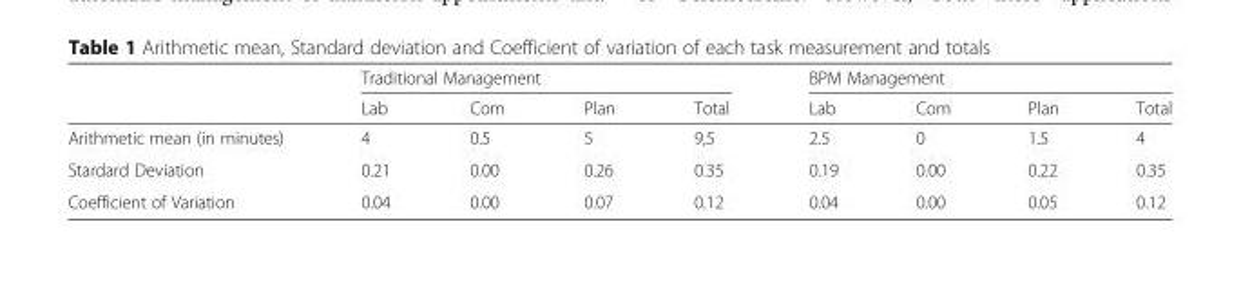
<table><thead><tr><td rowspan="2"></td><td colspan="4">Traditional Management</td><td colspan="4">BPM Management</td></tr><tr><td>Lab</td><td>Com</td><td>Plan</td><td>Total</td><td>Lab</td><td>Com</td><td>Plan</td><td>Total</td></tr></thead><tbody><tr><td>Arithmetic mean (in minutes)</td><td>4</td><td>0.5</td><td>5</td><td>9,5</td><td>2.5</td><td>0</td><td>1.5</td><td>4</td></tr><tr><td>Stardard Deviation</td><td>0.21</td><td>0.00</td><td>0.26</td><td>0.35</td><td>0.19</td><td>0.00</td><td>0.22</td><td>0.35</td></tr><tr><td>Coefficient of Variation</td><td>0.04</td><td>0.00</td><td>0.07</td><td>0.12</td><td>0.04</td><td>0.00</td><td>0.05</td><td>0.12</td></tr></tbody></table>